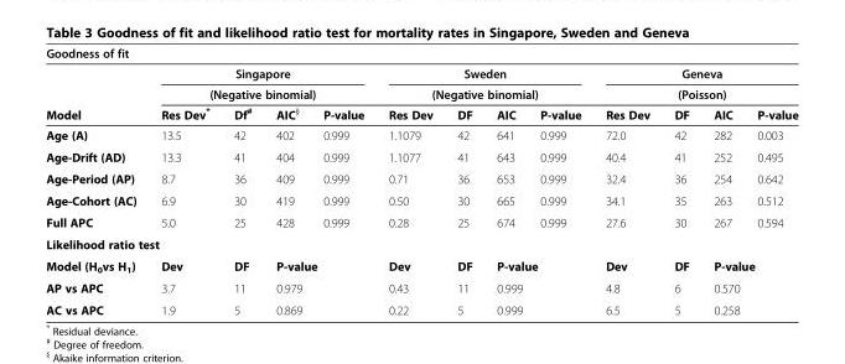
<table><thead><tr><td colspan="13">Goodness of fit</td></tr><tr><td rowspan="3">Model</td><td rowspan="2" colspan="4">Singapore (Negative binomial)</td><td rowspan="2" colspan="4">Sweden (Negative binomial)</td><td rowspan="2" colspan="4">Geneva (Poisson)</td></tr><tr></tr><tr><td>Res Dev*</td><td>Df<sup>#</sup></td><td>AIC<sup>§</sup></td><td>P-value</td><td>Res Dev</td><td>DF</td><td>AIC</td><td>P-value</td><td>Res Dev</td><td>DF</td><td>AIC</td><td>P-value</td></tr></thead><tbody><tr><td>Age (A)</td><td>13.5</td><td>42</td><td>402</td><td>0.999</td><td>1.1079</td><td>42</td><td>641</td><td>0.999</td><td>72.0</td><td>42</td><td>282</td><td>0.003</td></tr><tr><td>Age-Drift (AD)</td><td>13.3</td><td>41</td><td>404</td><td>0.999</td><td>1.1077</td><td>41</td><td>643</td><td>0.999</td><td>40.4</td><td>41</td><td>252</td><td>0.495</td></tr><tr><td>Age-Period (AP)</td><td>8.7</td><td>36</td><td>409</td><td>0.999</td><td>0.71</td><td>36</td><td>653</td><td>0.999</td><td>32.4</td><td>36</td><td>254</td><td>0.642</td></tr><tr><td>Age-Cohort (AC)</td><td>6.9</td><td>30</td><td>419</td><td>0.999</td><td>0.50</td><td>30</td><td>665</td><td>0.999</td><td>34.1</td><td>35</td><td>263</td><td>0.512</td></tr><tr><td>Full APC</td><td>5.0</td><td>25</td><td>428</td><td>0.999</td><td>0.28</td><td>25</td><td>674</td><td>0.999</td><td>27.6</td><td>30</td><td>267</td><td>0.594</td></tr><tr><td colspan="13">Likelihood ratio test</td></tr><tr><td>Model (H<sub>0</sub>vs H<sub>1</sub>)</td><td>Dev</td><td>DF</td><td colspan="2">P-value</td><td>Dev</td><td>DF</td><td colspan="2">P-value</td><td>Dev</td><td>DF</td><td colspan="2">P-value</td></tr><tr><td>AP vs APC</td><td>3.7</td><td>11</td><td colspan="2">0.979</td><td>0.43</td><td>11</td><td colspan="2">0.999</td><td>4.8</td><td>6</td><td colspan="2">0.570</td></tr><tr><td>AC vs APC</td><td>1.9</td><td>5</td><td colspan="2">0.869</td><td>0.22</td><td>5</td><td colspan="2">0.999</td><td>6.5</td><td>5</td><td colspan="2">0.258</td></tr></tbody></table>